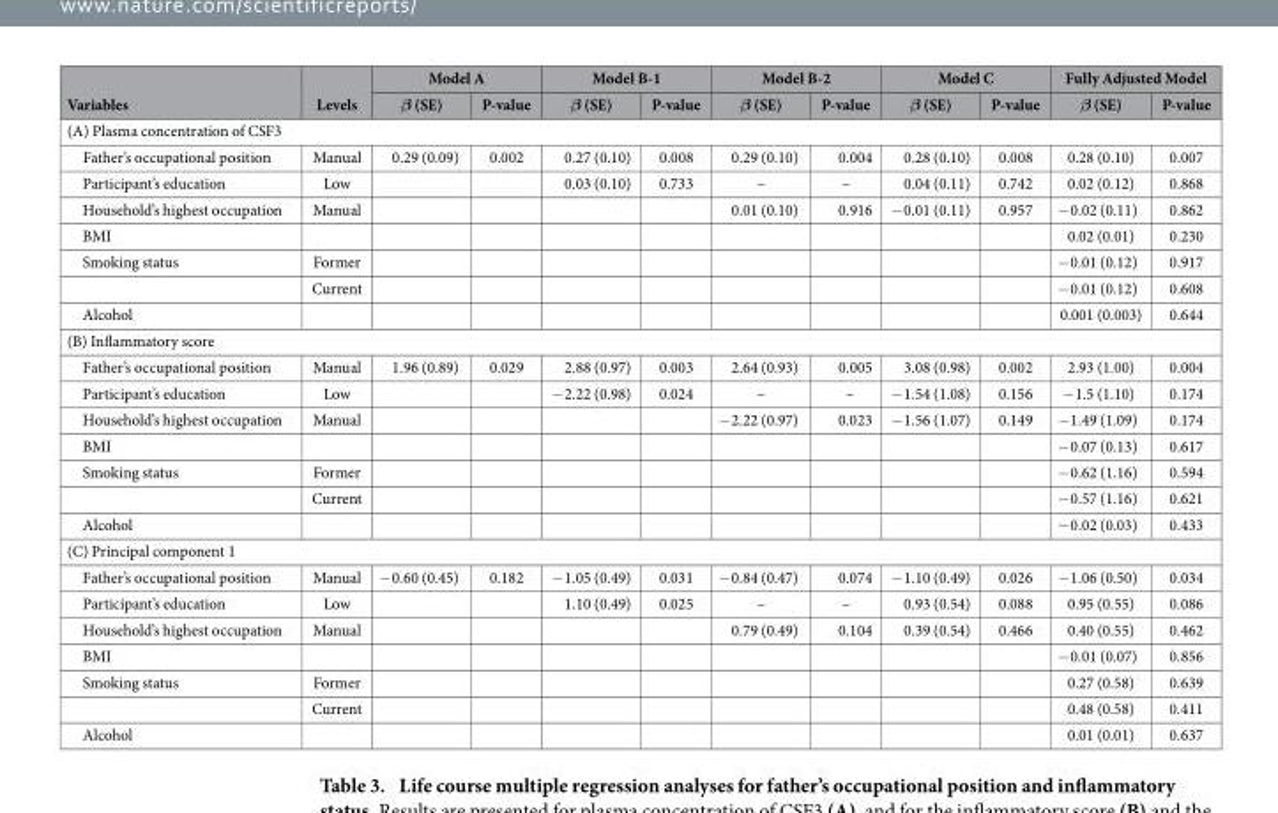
<table><thead><tr><td rowspan="2">Variables</td><td rowspan="2">Levels</td><td colspan="2">Model A</td><td colspan="2">Model B-1</td><td colspan="2">Model B-2</td><td colspan="2">Model C</td><td colspan="2">Fully Adjusted Model</td></tr><tr><td>β (SE)</td><td>P-value</td><td>β (SE)</td><td>P-value</td><td>β (SE)</td><td>P-value</td><td>β (SE)</td><td>P-value</td><td>β (SE)</td><td>P-value</td></tr></thead><tbody><tr><td colspan="12">(A) Plasma concentration of CSF3</td></tr><tr><td>Father’s occupational position</td><td>Manual</td><td>0.29 (0.09)</td><td>0.002</td><td>0.27 (0.10)</td><td>0.008</td><td>0.29 (0.10)</td><td>0.004</td><td>0.28 (0.10)</td><td>0.008</td><td>0.28 (0.10)</td><td>0.007</td></tr><tr><td>Participant’s education</td><td>Low</td><td></td><td></td><td>0.03 (0.10)</td><td>0.733</td><td>–</td><td>–</td><td>0.04 (0.11)</td><td>0.742</td><td>0.02 (0.12)</td><td>0.868</td></tr><tr><td>Household’s highest occupation</td><td>Manual</td><td></td><td></td><td></td><td></td><td>0.01 (0.10)</td><td>0.916</td><td>− 0.01 (0.11)</td><td>0.957</td><td>− 0.02 (0.11)</td><td>0.862</td></tr><tr><td>BMI</td><td></td><td></td><td></td><td></td><td></td><td></td><td></td><td></td><td></td><td>0.02 (0.01)</td><td>0.230</td></tr><tr><td rowspan="2">Smoking status</td><td>Former</td><td></td><td></td><td></td><td></td><td></td><td></td><td></td><td></td><td>− 0.01 (0.12)</td><td>0.917</td></tr><tr><td>Current</td><td></td><td></td><td></td><td></td><td></td><td></td><td></td><td></td><td>− 0.01 (0.12)</td><td>0.608</td></tr><tr><td>Alcohol</td><td></td><td></td><td></td><td></td><td></td><td></td><td></td><td></td><td></td><td>0.001 (0.003)</td><td>0.644</td></tr><tr><td colspan="12">(B) Inflammatory score</td></tr><tr><td>Father’s occupational position</td><td>Manual</td><td>1.96 (0.89)</td><td>0.029</td><td>2.88 (0.97)</td><td>0.003</td><td>2.64 (0.93)</td><td>0.005</td><td>3.08 (0.98)</td><td>0.002</td><td>2.93 (1.00)</td><td>0.004</td></tr><tr><td>Participant’s education</td><td>Low</td><td></td><td></td><td>− 2.22 (0.98)</td><td>0.024</td><td>–</td><td>–</td><td>− 1.54 (1.08)</td><td>0.156</td><td>− 1.5 (1.10)</td><td>0.174</td></tr><tr><td>Household’s highest occupation</td><td>Manual</td><td></td><td></td><td></td><td></td><td>− 2.22 (0.97)</td><td>0.023</td><td>− 1.56 (1.07)</td><td>0.149</td><td>− 1.49 (1.09)</td><td>0.174</td></tr><tr><td>BMI</td><td></td><td></td><td></td><td></td><td></td><td></td><td></td><td></td><td></td><td>− 0.07 (0.13)</td><td>0.617</td></tr><tr><td rowspan="2">Smoking status</td><td>Former</td><td></td><td></td><td></td><td></td><td></td><td></td><td></td><td></td><td>− 0.62 (1.16)</td><td>0.594</td></tr><tr><td>Current</td><td></td><td></td><td></td><td></td><td></td><td></td><td></td><td></td><td>− 0.57 (1.16)</td><td>0.621</td></tr><tr><td>Alcohol</td><td></td><td></td><td></td><td></td><td></td><td></td><td></td><td></td><td></td><td>− 0.02 (0.03)</td><td>0.433</td></tr><tr><td colspan="12">(C) Principal component 1</td></tr><tr><td>Father’s occupational position</td><td>Manual</td><td>− 0.60 (0.45)</td><td>0.182</td><td>− 1.05 (0.49)</td><td>0.031</td><td>− 0.84 (0.47)</td><td>0.074</td><td>− 1.10 (0.49)</td><td>0.026</td><td>− 1.06 (0.50)</td><td>0.034</td></tr><tr><td>Participant’s education</td><td>Low</td><td></td><td></td><td>1.10 (0.49)</td><td>0.025</td><td>–</td><td>–</td><td>0.93 (0.54)</td><td>0.088</td><td>0.95 (0.55)</td><td>0.086</td></tr><tr><td>Household’s highest occupation</td><td>Manual</td><td></td><td></td><td></td><td></td><td>0.79 (0.49)</td><td>0.104</td><td>0.39 (0.54)</td><td>0.466</td><td>0.40 (0.55)</td><td>0.462</td></tr><tr><td>BMI</td><td></td><td></td><td></td><td></td><td></td><td></td><td></td><td></td><td></td><td>− 0.01 (0.07)</td><td>0.856</td></tr><tr><td rowspan="2">Smoking status</td><td>Former</td><td></td><td></td><td></td><td></td><td></td><td></td><td></td><td></td><td>0.27 (0.58)</td><td>0.639</td></tr><tr><td>Current</td><td></td><td></td><td></td><td></td><td></td><td></td><td></td><td></td><td>0.48 (0.58)</td><td>0.411</td></tr><tr><td>Alcohol</td><td></td><td></td><td></td><td></td><td></td><td></td><td></td><td></td><td></td><td>0.01 (0.01)</td><td>0.637</td></tr></tbody></table>